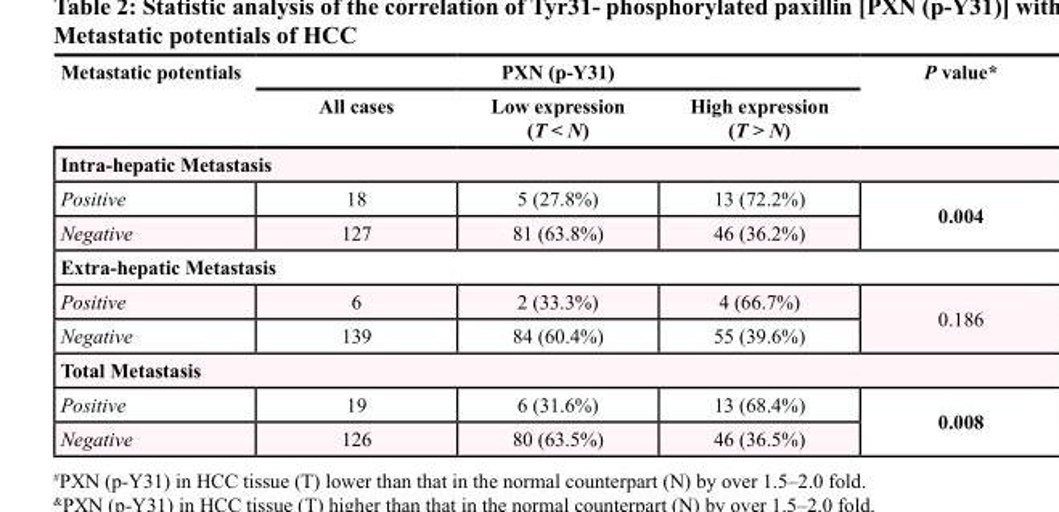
<table><thead><tr><td rowspan="2">Metastatic potentials</td><td colspan="3">PXN (p-Y31)</td><td rowspan="2">P value*</td></tr><tr><td>All cases</td><td>Low expression (T &lt; N)</td><td>High expression (T &gt; N)</td></tr></thead><tbody><tr><td colspan="5">Intra-hepatic Metastasis</td></tr><tr><td>Positive</td><td>18</td><td>5 (27.8%)</td><td>13 (72.2%)</td><td rowspan="2">0.004</td></tr><tr><td>Negative</td><td>127</td><td>81 (63.8%)</td><td>46 (36.2%)</td></tr><tr><td colspan="5">Extra-hepatic Metastasis</td></tr><tr><td>Positive</td><td>6</td><td>2 (33.3%)</td><td>4 (66.7%)</td><td rowspan="2">0.186</td></tr><tr><td>Negative</td><td>139</td><td>84 (60.4%)</td><td>55 (39.6%)</td></tr><tr><td colspan="5">Total Metastasis</td></tr><tr><td>Positive</td><td>19</td><td>6 (31.6%)</td><td>13 (68.4%)</td><td rowspan="2">0.008</td></tr><tr><td>Negative</td><td>126</td><td>80 (63.5%)</td><td>46 (36.5%)</td></tr></tbody></table>